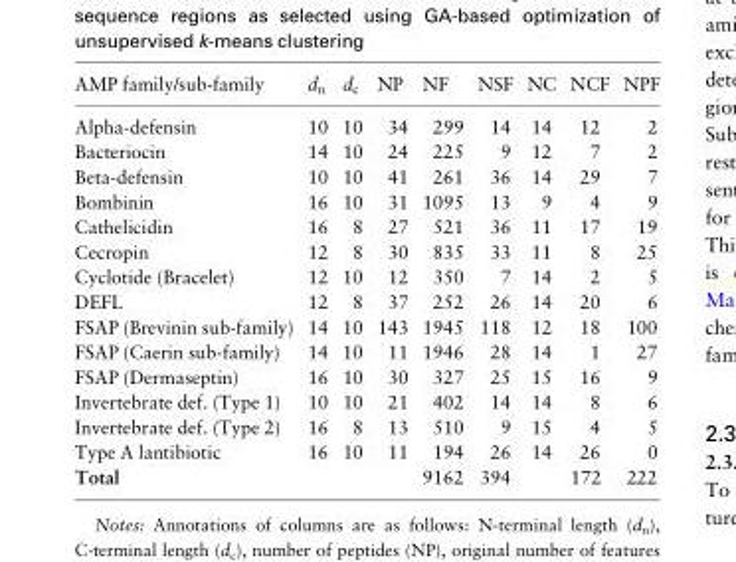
<table><thead><tr><td>AMP family/sub-family</td><td>d<sub>n</sub></td><td>d<sub>c</sub></td><td>NP</td><td>NF</td><td>NSF</td><td>NC</td><td>NCF</td><td>NPF</td></tr></thead><tbody><tr><td>Alpha-defensin</td><td>10</td><td>10</td><td>34</td><td>299</td><td>14</td><td>14</td><td>12</td><td>2</td></tr><tr><td>Bacteriocin</td><td>14</td><td>10</td><td>24</td><td>225</td><td>9</td><td>12</td><td>7</td><td>2</td></tr><tr><td>Beta-defensin</td><td>10</td><td>10</td><td>41</td><td>261</td><td>36</td><td>14</td><td>29</td><td>7</td></tr><tr><td>Bombinin</td><td>16</td><td>10</td><td>31</td><td>1095</td><td>13</td><td>9</td><td>4</td><td>9</td></tr><tr><td>Cathelicidin</td><td>16</td><td>8</td><td>27</td><td>521</td><td>36</td><td>11</td><td>17</td><td>19</td></tr><tr><td>Cecropin</td><td>12</td><td>8</td><td>30</td><td>835</td><td>33</td><td>11</td><td>8</td><td>25</td></tr><tr><td>Cyclotide (Bracelet)</td><td>12</td><td>10</td><td>12</td><td>350</td><td>7</td><td>14</td><td>2</td><td>5</td></tr><tr><td>DEFL</td><td>12</td><td>8</td><td>37</td><td>252</td><td>26</td><td>14</td><td>20</td><td>6</td></tr><tr><td>FSAP (Brevinin sub-family)</td><td>14</td><td>10</td><td>143</td><td>1945</td><td>118</td><td>12</td><td>18</td><td>100</td></tr><tr><td>FSAP (Caerin sub-family)</td><td>14</td><td>10</td><td>11</td><td>1946</td><td>28</td><td>14</td><td>1</td><td>27</td></tr><tr><td>FSAP (Dermaseptin)</td><td>16</td><td>10</td><td>30</td><td>327</td><td>25</td><td>15</td><td>16</td><td>9</td></tr><tr><td>Invertebrate def. (Type 1)</td><td>10</td><td>10</td><td>21</td><td>402</td><td>14</td><td>14</td><td>8</td><td>6</td></tr><tr><td>Invertebrate def. (Type 2)</td><td>16</td><td>8</td><td>13</td><td>510</td><td>9</td><td>15</td><td>4</td><td>5</td></tr><tr><td>Type A lantibiotic</td><td>16</td><td>10</td><td>11</td><td>194</td><td>26</td><td>14</td><td>26</td><td>0</td></tr><tr><td>Total</td><td></td><td></td><td></td><td>9162</td><td>394</td><td></td><td>172</td><td>222</td></tr></tbody></table>